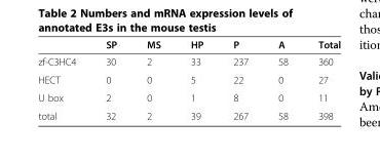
<table><thead><tr><td></td><td>SP</td><td>MS</td><td>HP</td><td>P</td><td>A</td><td>Total</td></tr></thead><tbody><tr><td>zf-C3HC4</td><td>30</td><td>2</td><td>33</td><td>237</td><td>58</td><td>360</td></tr><tr><td>HECT</td><td>0</td><td>0</td><td>5</td><td>22</td><td>0</td><td>27</td></tr><tr><td>U box</td><td>2</td><td>0</td><td>1</td><td>8</td><td>0</td><td>11</td></tr><tr><td>total</td><td>32</td><td>2</td><td>39</td><td>267</td><td>58</td><td>398</td></tr></tbody></table>